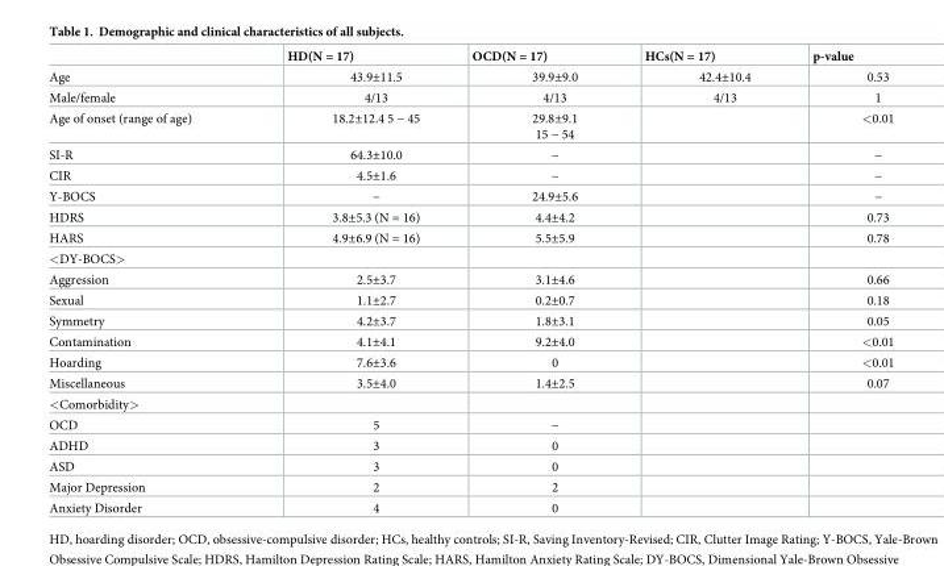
<table><thead><tr><td></td><td>HD(N = 17)</td><td>OCD(N = 17)</td><td>HCs(N = 17)</td><td>p-value</td></tr></thead><tbody><tr><td>Age</td><td>43.9±11.5</td><td>39.9±9.0</td><td>42.4±10.4</td><td>0.53</td></tr><tr><td>Male/female</td><td>4/13</td><td>4/13</td><td>4/13</td><td>1</td></tr><tr><td>Age of onset (range of age)</td><td>18.2±12.4 5 − 45</td><td>29.8±9.1 15 − 54</td><td></td><td>&lt;0.01</td></tr><tr><td>SI-R</td><td>64.3±10.0</td><td>−</td><td></td><td>−</td></tr><tr><td>CIR</td><td>4.5±1.6</td><td>−</td><td></td><td>−</td></tr><tr><td>Y-BOCS</td><td>−</td><td>24.9±5.6</td><td></td><td>−</td></tr><tr><td>HDRS</td><td>3.8±5.3 (N = 16)</td><td>4.4±4.2</td><td></td><td>0.73</td></tr><tr><td>HARS</td><td>4.9±6.9 (N = 16)</td><td>5.5±5.9</td><td></td><td>0.78</td></tr><tr><td colspan="5">&lt;DY-BOCS&gt;</td></tr><tr><td>Aggression</td><td>2.5±3.7</td><td>3.1±4.6</td><td></td><td>0.66</td></tr><tr><td>Sexual</td><td>1.1±2.7</td><td>0.2±0.7</td><td></td><td>0.18</td></tr><tr><td>Symmetry</td><td>4.2±3.7</td><td>1.8±3.1</td><td></td><td>0.05</td></tr><tr><td>Contamination</td><td>4.1±4.1</td><td>9.2±4.0</td><td></td><td>&lt;0.01</td></tr><tr><td>Hoarding</td><td>7.6±3.6</td><td>0</td><td></td><td>&lt;0.01</td></tr><tr><td>Miscellaneous</td><td>3.5±4.0</td><td>1.4±2.5</td><td></td><td>0.07</td></tr><tr><td colspan="5">&lt;Comorbidity&gt;</td></tr><tr><td>OCD</td><td>5</td><td>−</td><td></td><td></td></tr><tr><td>ADHD</td><td>3</td><td>0</td><td></td><td></td></tr><tr><td>ASD</td><td>3</td><td>0</td><td></td><td></td></tr><tr><td>Major Depression</td><td>2</td><td>2</td><td></td><td></td></tr><tr><td>Anxiety Disorder</td><td>4</td><td>0</td><td></td><td></td></tr></tbody></table>